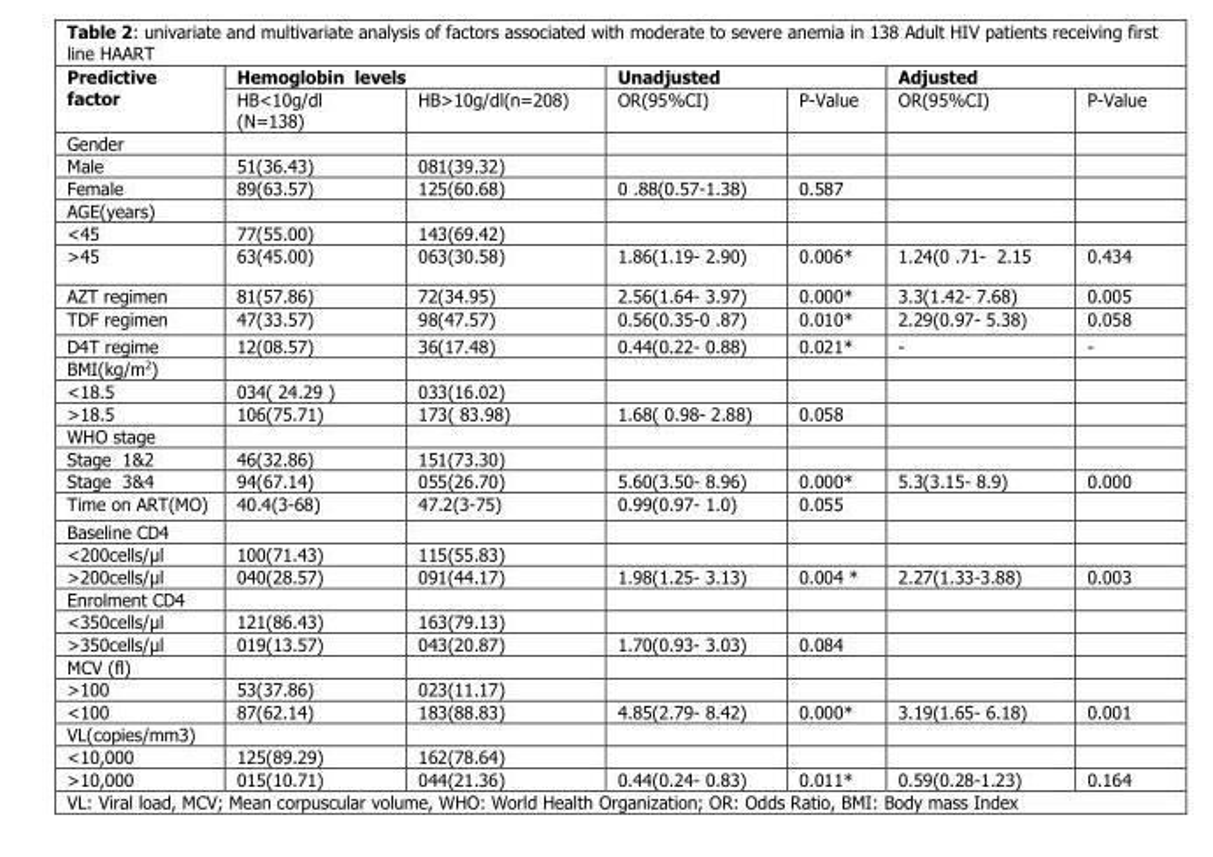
<table><thead><tr><td rowspan="2">Predictive factor</td><td colspan="2">Hemoglobin levels</td><td colspan="2">Unadjusted</td><td colspan="2">Adjusted</td></tr><tr><td>HB&lt;10g/dl (N=138)</td><td>HB&gt;10g/dl(n=208)</td><td>OR(95%CI)</td><td>P-Value</td><td>OR(95%CI)</td><td>P-Value</td></tr></thead><tbody><tr><td colspan="7">Gender</td></tr><tr><td>Male</td><td>51(36.43)</td><td>081(39.32)</td><td></td><td></td><td></td><td></td></tr><tr><td>Female</td><td>89(63.57)</td><td>125(60.68)</td><td>0 .88(0.57-1.38)</td><td>0.587</td><td></td><td></td></tr><tr><td colspan="7">AGE(years)</td></tr><tr><td>&lt;45</td><td>77(55.00)</td><td>143(69.42)</td><td></td><td></td><td></td><td></td></tr><tr><td>&gt;45</td><td>63(45.00)</td><td>063(30.58)</td><td>1.86(1.19- 2.90)</td><td>0.006*</td><td>1.24(0 .71- 2.15</td><td>0.434</td></tr><tr><td>AZT regimen</td><td>81(57.86)</td><td>72(34.95)</td><td>2.56(1.64- 3.97)</td><td>0.000*</td><td>3.3(1.42- 7.68)</td><td>0.005</td></tr><tr><td>TDF regimen</td><td>47(33.57)</td><td>98(47.57)</td><td>0.56(0.35-0 .87)</td><td>0.010*</td><td>2.29(0.97- 5.38)</td><td>0.058</td></tr><tr><td>D4T regime</td><td>12(08.57)</td><td>36(17.48)</td><td>0.44(0.22- 0.88)</td><td>0.021*</td><td>-</td><td>-</td></tr><tr><td colspan="7">BMI(kg/m<sup>2</sup>)</td></tr><tr><td>&lt;18.5</td><td>034( 24.29 )</td><td>033(16.02)</td><td></td><td></td><td></td><td></td></tr><tr><td>&gt;18.5</td><td>106(75.71)</td><td>173( 83.98)</td><td>1.68( 0.98- 2.88)</td><td>0.058</td><td></td><td></td></tr><tr><td colspan="7">WHO stage</td></tr><tr><td>Stage 1&amp;2</td><td>46(32.86)</td><td>151(73.30)</td><td></td><td></td><td></td><td></td></tr><tr><td>Stage 3&amp;4</td><td>94(67.14)</td><td>055(26.70)</td><td>5.60(3.50- 8.96)</td><td>0.000*</td><td>5.3(3.15- 8.9)</td><td>0.000</td></tr><tr><td>Time on ART(MO)</td><td>40.4(3-68)</td><td>47.2(3-75)</td><td>0.99(0.97- 1.0)</td><td>0.055</td><td></td><td></td></tr><tr><td colspan="7">Baseline CD4</td></tr><tr><td>&lt;200cells/µl</td><td>100(71.43)</td><td>115(55.83)</td><td></td><td></td><td></td><td></td></tr><tr><td>&gt;200cells/µl</td><td>040(28.57)</td><td>091(44.17)</td><td>1.98(1.25- 3.13)</td><td>0.004 *</td><td>2.27(1.33-3.88)</td><td>0.003</td></tr><tr><td colspan="7">Enrolment CD4</td></tr><tr><td>&lt;350cells/µl</td><td>121(86.43)</td><td>163(79.13)</td><td></td><td></td><td></td><td></td></tr><tr><td>&gt;350cells/µl</td><td>019(13.57)</td><td>043(20.87)</td><td>1.70(0.93- 3.03)</td><td>0.084</td><td></td><td></td></tr><tr><td colspan="7">MCV (fl)</td></tr><tr><td>&gt;100</td><td>53(37.86)</td><td>023(11.17)</td><td></td><td></td><td></td><td></td></tr><tr><td>&lt;100</td><td>87(62.14)</td><td>183(88.83)</td><td>4.85(2.79- 8.42)</td><td>0.000*</td><td>3.19(1.65- 6.18)</td><td>0.001</td></tr><tr><td colspan="7">VL(copies/mm3)</td></tr><tr><td>&lt;10,000</td><td>125(89.29)</td><td>162(78.64)</td><td></td><td></td><td></td><td></td></tr><tr><td>&gt;10,000</td><td>015(10.71)</td><td>044(21.36)</td><td>0.44(0.24- 0.83)</td><td>0.011*</td><td>0.59(0.28-1.23)</td><td>0.164</td></tr></tbody></table>